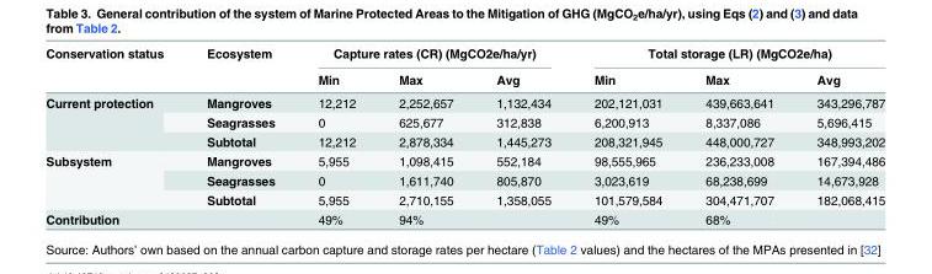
<table><thead><tr><td rowspan="2">Conservation status</td><td rowspan="2">Ecosystem</td><td colspan="3">Capture rates (CR) (MgCO2e/ha/yr)</td><td colspan="3">Total storage (LR) (MgCO2e/ha)</td></tr><tr><td>Min</td><td>Max</td><td>Avg</td><td>Min</td><td>Max</td><td>Avg</td></tr></thead><tbody><tr><td rowspan="3">Current protection</td><td>Mangroves</td><td>12,212</td><td>2,252,657</td><td>1,132,434</td><td>202,121,031</td><td>439,663,641</td><td>343,296,787</td></tr><tr><td>Seagrasses</td><td>0</td><td>625,677</td><td>312,838</td><td>6,200,913</td><td>8,337,086</td><td>5,696,415</td></tr><tr><td>Subtotal</td><td>12,212</td><td>2,878,334</td><td>1,445,273</td><td>208,321,945</td><td>448,000,727</td><td>348,993,202</td></tr><tr><td rowspan="3">Subsystem</td><td>Mangroves</td><td>5,955</td><td>1,098,415</td><td>552,184</td><td>98,555,965</td><td>236,233,008</td><td>167,394,486</td></tr><tr><td>Seagrasses</td><td>0</td><td>1,611,740</td><td>805,870</td><td>3,023,619</td><td>68,238,699</td><td>14,673,928</td></tr><tr><td>Subtotal</td><td>5,955</td><td>2,710,155</td><td>1,358,055</td><td>101,579,584</td><td>304,471,707</td><td>182,068,415</td></tr><tr><td>Contribution</td><td></td><td>49%</td><td>94%</td><td></td><td>49%</td><td>68%</td><td></td></tr></tbody></table>